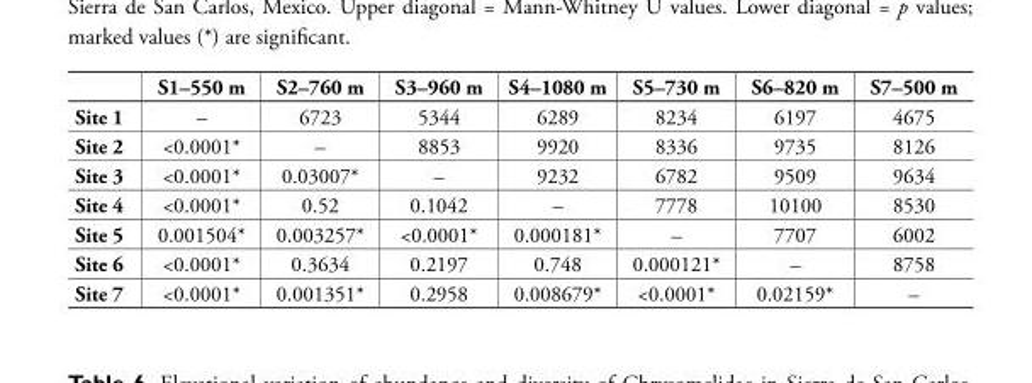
<table><thead><tr><td></td><td>S1–550 m</td><td>S2–760 m</td><td>S3–960 m</td><td>S4–1080 m</td><td>S5–730 m</td><td>S6–820 m</td><td>S7–500 m</td></tr></thead><tbody><tr><td>Site 1</td><td>–</td><td>6723</td><td>5344</td><td>6289</td><td>8234</td><td>6197</td><td>4675</td></tr><tr><td>Site 2</td><td>&lt;0.0001*</td><td>–</td><td>8853</td><td>9920</td><td>8336</td><td>9735</td><td>8126</td></tr><tr><td>Site 3</td><td>&lt;0.0001*</td><td>0.03007*</td><td>–</td><td>9232</td><td>6782</td><td>9509</td><td>9634</td></tr><tr><td>Site 4</td><td>&lt;0.0001*</td><td>0.52</td><td>0.1042</td><td>–</td><td>7778</td><td>10100</td><td>8530</td></tr><tr><td>Site 5</td><td>0.001504*</td><td>0.003257*</td><td>&lt;0.0001*</td><td>0.000181*</td><td>–</td><td>7707</td><td>6002</td></tr><tr><td>Site 6</td><td>&lt;0.0001*</td><td>0.3634</td><td>0.2197</td><td>0.748</td><td>0.000121*</td><td>–</td><td>8758</td></tr><tr><td>Site 7</td><td>&lt;0.0001*</td><td>0.001351*</td><td>0.2958</td><td>0.008679*</td><td>&lt;0.0001*</td><td>0.02159*</td><td>–</td></tr></tbody></table>